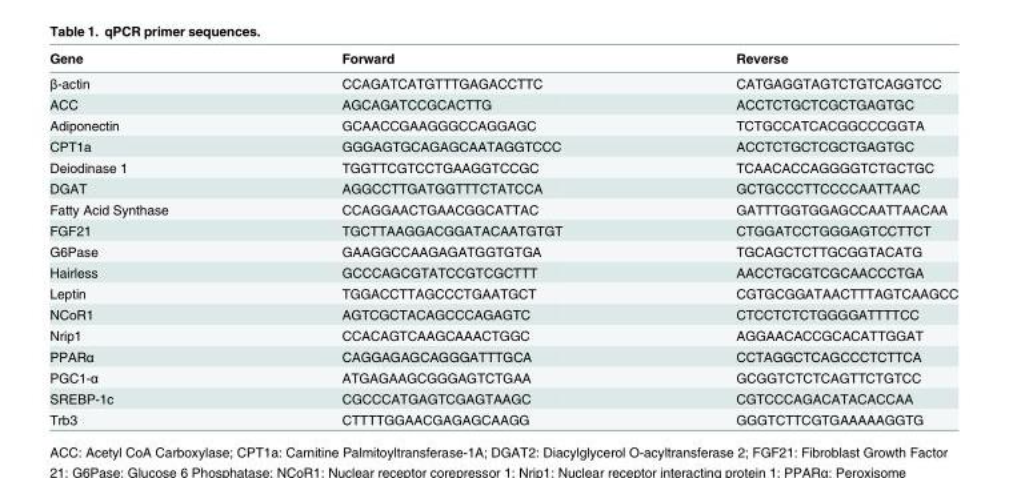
<table><thead><tr><td>Gene</td><td>Forward</td><td>Reverse</td></tr></thead><tbody><tr><td>β-actin</td><td>CCAGATCATGTTTGAGACCTTC</td><td>CATGAGGTAGTCTGTCAGGTCC</td></tr><tr><td>ACC</td><td>AGCAGATCCGCACTTG</td><td>ACCTCTGCTCGCTGAGTGC</td></tr><tr><td>Adiponectin</td><td>GCAACCGAAGGGCCAGGAGC</td><td>TCTGCCATCACGGCCCGGTA</td></tr><tr><td>CPT1a</td><td>GGGAGTGCAGAGCAATAGGTCCC</td><td>ACCTCTGCTCGCTGAGTGC</td></tr><tr><td>Deiodinase 1</td><td>TGGTTCGTCCTGAAGGTCCGC</td><td>TCAACACCAGGGGTCTGCTGC</td></tr><tr><td>DGAT</td><td>AGGCCTTGATGGTTTCTATCCA</td><td>GCTGCCCTTCCCCAATTAAC</td></tr><tr><td>Fatty Acid Synthase</td><td>CCAGGAACTGAACGGCATTAC</td><td>GATTTGGTGGAGCCAATTAACAA</td></tr><tr><td>FGF21</td><td>TGCTTAAGGACGGATACAATGTGT</td><td>CTGGATCCTGGGAGTCCTTCT</td></tr><tr><td>G6Pase</td><td>GAAGGCCAAGAGATGGTGTGA</td><td>TGCAGCTCTTGCGGTACATG</td></tr><tr><td>Hairless</td><td>GCCCAGCGTATCCGTCGCTTT</td><td>AACCTGCGTCGCAACCCTGA</td></tr><tr><td>Leptin</td><td>TGGACCTTAGCCCTGAATGCT</td><td>CGTGCGGATAACTTTAGTCAAGCC</td></tr><tr><td>NCoR1</td><td>AGTCGCTACAGCCCAGAGTC</td><td>CTCCTCTCTGGGGATTTTCC</td></tr><tr><td>Nrip1</td><td>CCACAGTCAAGCAAACTGGC</td><td>AGGAACACCGCACATTGGAT</td></tr><tr><td>PPARα</td><td>CAGGAGAGCAGGGATTTGCA</td><td>CCTAGGCTCAGCCCTCTTCA</td></tr><tr><td>PGC1-α</td><td>ATGAGAAGCGGGAGTCTGAA</td><td>GCGGTCTCTCAGTTCTGTCC</td></tr><tr><td>SREBP-1c</td><td>CGCCCATGAGTCGAGTAAGC</td><td>CGTCCCAGACATACACCAA</td></tr><tr><td>Trb3</td><td>CTTTTGGAACGAGAGCAAGG</td><td>GGGTCTTCGTGAAAAAGGTG</td></tr></tbody></table>